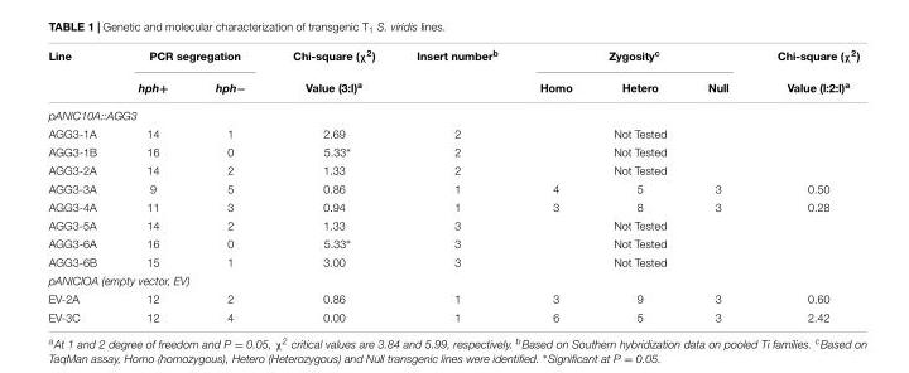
<table><thead><tr><td rowspan="2">Line</td><td colspan="2">PCR segregation</td><td rowspan="2">Chi-square (χ<sup>2</sup>) Value (3:l)<sup>a</sup></td><td rowspan="2">Insert number<sup>b</sup></td><td colspan="3">Zygosity<sup>c</sup></td><td rowspan="2">Chi-square (χ<sup>2</sup>) Value (l:2:l)<sup>a</sup></td></tr><tr><td>hph+</td><td>hph−</td><td>Homo</td><td>Hetero</td><td>Null</td></tr></thead><tbody><tr><td colspan="9">pANIC10A::AGG3</td></tr><tr><td>AGG3-1A</td><td>14</td><td>1</td><td>2.69</td><td>2</td><td></td><td>Not Tested</td><td></td><td></td></tr><tr><td>AGG3-1B</td><td>16</td><td>0</td><td>5.33∗</td><td>2</td><td></td><td>Not Tested</td><td></td><td></td></tr><tr><td>AGG3-2A</td><td>14</td><td>2</td><td>1.33</td><td>2</td><td></td><td>Not Tested</td><td></td><td></td></tr><tr><td>AGG3-3A</td><td>9</td><td>5</td><td>0.86</td><td>1</td><td>4</td><td>5</td><td>3</td><td>0.50</td></tr><tr><td>AGG3-4A</td><td>11</td><td>3</td><td>0.94</td><td>1</td><td>3</td><td>8</td><td>3</td><td>0.28</td></tr><tr><td>AGG3-5A</td><td>14</td><td>2</td><td>1.33</td><td>3</td><td></td><td>Not Tested</td><td></td><td></td></tr><tr><td>AGG3-6A</td><td>16</td><td>0</td><td>5.33∗</td><td>3</td><td></td><td>Not Tested</td><td></td><td></td></tr><tr><td>AGG3-6B</td><td>15</td><td>1</td><td>3.00</td><td>3</td><td></td><td>Not Tested</td><td></td><td></td></tr><tr><td colspan="9">pANIClOA (empty vector, EV)</td></tr><tr><td>EV-2A</td><td>12</td><td>2</td><td>0.86</td><td>1</td><td>3</td><td>9</td><td>3</td><td>0.60</td></tr><tr><td>EV-3C</td><td>12</td><td>4</td><td>0.00</td><td>1</td><td>6</td><td>5</td><td>3</td><td>2.42</td></tr></tbody></table>